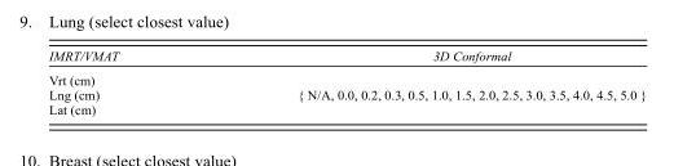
<table><thead><tr><td>IMRT/VMAT</td><td>3D Conformal</td></tr></thead><tbody><tr><td colspan="2">Vrt (cm)</td></tr><tr><td>Lng (cm)</td><td>{ N/A, 0.0, 0.2, 0.3, 0.5, 1.0, 1.5, 2.0, 2.5, 3.0, 3.5, 4.0, 4.5, 5.0 }</td></tr><tr><td>Lat (cm)</td><td></td></tr></tbody></table>